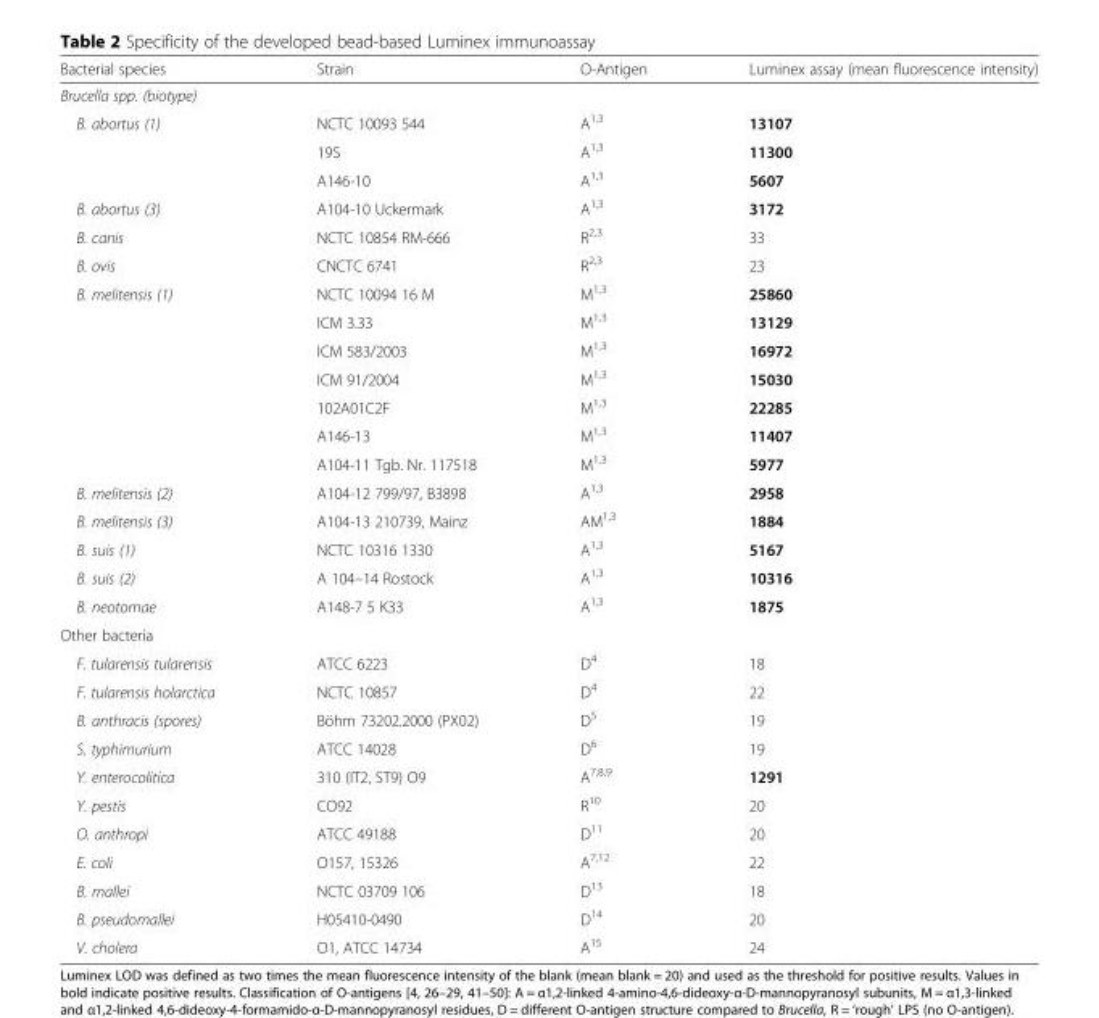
<table><thead><tr><td>Bacterial species</td><td>Strain</td><td>O-Antigen</td><td>Luminex assay (mean fluorescence intensity)</td></tr></thead><tbody><tr><td colspan="4">Brucella spp. (biotype)</td></tr><tr><td rowspan="3">B. abortus (1)</td><td>NCTC 10093 544</td><td>A<sup>1,3</sup></td><td>13107</td></tr><tr><td>19S</td><td>A<sup>1,3</sup></td><td>11300</td></tr><tr><td>A146-10</td><td>A<sup>1,3</sup></td><td>5607</td></tr><tr><td>B. abortus (3)</td><td>A104-10 Uckermark</td><td>A<sup>1,3</sup></td><td>3172</td></tr><tr><td>B. canis</td><td>NCTC 10854 RM-666</td><td>R<sup>2,3</sup></td><td>33</td></tr><tr><td>B. ovis</td><td>CNCTC 6741</td><td>R<sup>2,3</sup></td><td>23</td></tr><tr><td rowspan="7">B. melitensis (1)</td><td>NCTC 10094 16 M</td><td>M<sup>1,3</sup></td><td>25860</td></tr><tr><td>ICM 3.33</td><td>M<sup>1,3</sup></td><td>13129</td></tr><tr><td>ICM 583/2003</td><td>M<sup>1,3</sup></td><td>16972</td></tr><tr><td>ICM 91/2004</td><td>M<sup>1,3</sup></td><td>15030</td></tr><tr><td>102A01C2F</td><td>M<sup>1,3</sup></td><td>22285</td></tr><tr><td>A146-13</td><td>M<sup>1,3</sup></td><td>11407</td></tr><tr><td>A104-11 Tgb. Nr. 117518</td><td>M<sup>1,3</sup></td><td>5977</td></tr><tr><td>B. melitensis (2)</td><td>A104-12 799/97, B3898</td><td>A<sup>1,3</sup></td><td>2958</td></tr><tr><td>B. melitensis (3)</td><td>A104-13 210739, Mainz</td><td>AM<sup>1,3</sup></td><td>1884</td></tr><tr><td>B. suis (1)</td><td>NCTC 10316 1330</td><td>A<sup>1,3</sup></td><td>5167</td></tr><tr><td>B. suis (2)</td><td>A 104–14 Rostock</td><td>A<sup>1,3</sup></td><td>10316</td></tr><tr><td>B. neotomae</td><td>A148-7 5 K33</td><td>A<sup>1,3</sup></td><td>1875</td></tr><tr><td colspan="4">Other bacteria</td></tr><tr><td>F. tularensis tularensis</td><td>ATCC 6223</td><td>D<sup>4</sup></td><td>18</td></tr><tr><td>F. tularensis holarctica</td><td>NCTC 10857</td><td>D<sup>4</sup></td><td>22</td></tr><tr><td>B. anthracis (spores)</td><td>Böhm 73202.2000 (PX02)</td><td>D<sup>5</sup></td><td>19</td></tr><tr><td>S. typhimurium</td><td>ATCC 14028</td><td>D<sup>6</sup></td><td>19</td></tr><tr><td>Y. enterocolitica</td><td>310 (IT2, ST9) O9</td><td>A<sup>7,8,9</sup></td><td>1291</td></tr><tr><td>Y. pestis</td><td>CO92</td><td>R<sup>10</sup></td><td>20</td></tr><tr><td>O. anthropi</td><td>ATCC 49188</td><td>D<sup>11</sup></td><td>20</td></tr><tr><td>E. coli</td><td>O157, 15326</td><td>A<sup>7,12</sup></td><td>22</td></tr><tr><td>B. mallei</td><td>NCTC 03709 106</td><td>D<sup>13</sup></td><td>18</td></tr><tr><td>B. pseudomallei</td><td>H05410-0490</td><td>D<sup>14</sup></td><td>20</td></tr><tr><td>V. cholera</td><td>O1, ATCC 14734</td><td>A<sup>15</sup></td><td>24</td></tr></tbody></table>